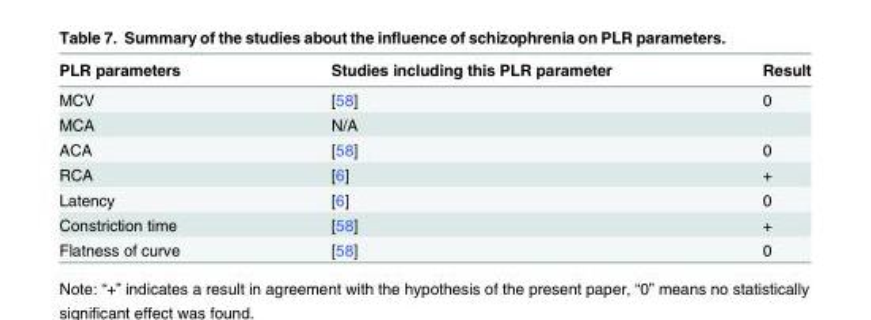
<table><thead><tr><td>PLR parameters</td><td>Studies including this PLR parameter</td><td>Result</td></tr></thead><tbody><tr><td>MCV</td><td>[58]</td><td>0</td></tr><tr><td>MCA</td><td>N/A</td><td></td></tr><tr><td>ACA</td><td>[58]</td><td>0</td></tr><tr><td>RCA</td><td>[6]</td><td>+</td></tr><tr><td>Latency</td><td>[6]</td><td>0</td></tr><tr><td>Constriction time</td><td>[58]</td><td>+</td></tr><tr><td>Flatness of curve</td><td>[58]</td><td>0</td></tr></tbody></table>